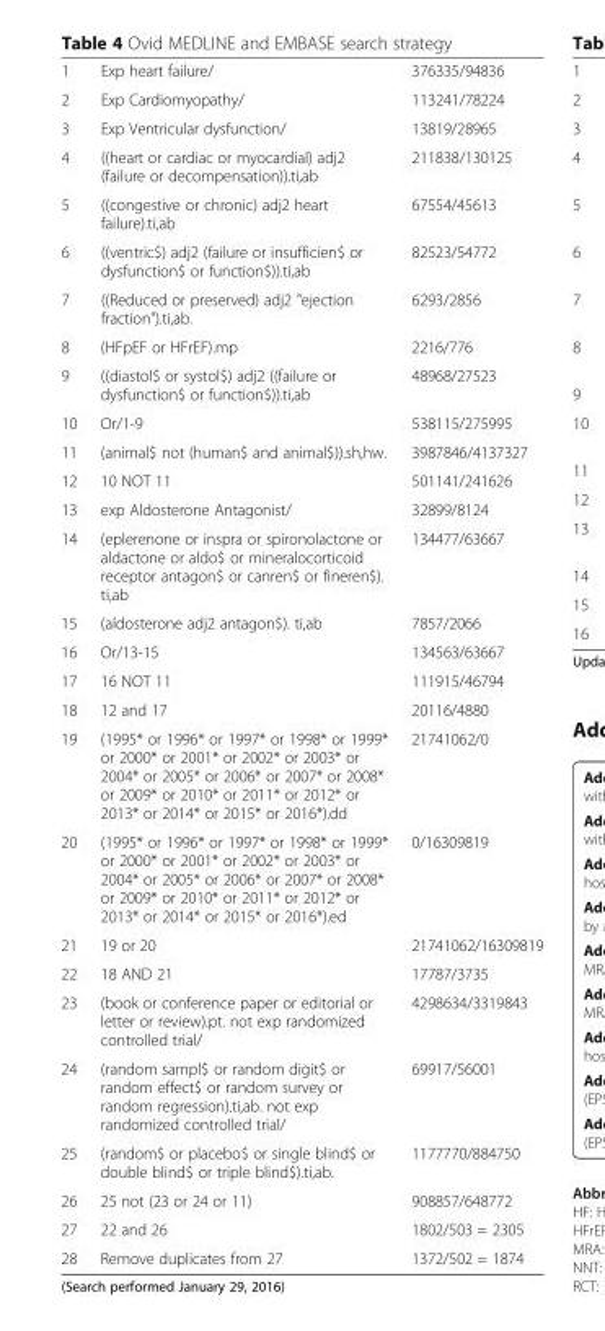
<table><tbody><tr><td>1</td><td>Exp heart failure/</td><td>376335/94836</td></tr><tr><td>2</td><td>Exp Cardiomyopathy/</td><td>113241/78224</td></tr><tr><td>3</td><td>Exp Ventricular dysfunction/</td><td>13819/28965</td></tr><tr><td>4</td><td>((heart or cardiac or myocardial) adj2 (failure or decompensation)).ti,ab</td><td>211838/130125</td></tr><tr><td>5</td><td>((congestive or chronic) adj2 heart failure).ti,ab</td><td>67554/45613</td></tr><tr><td>6</td><td>((ventric$) adj2 (failure or insufficien$ or dysfunction$ or function$)).ti,ab</td><td>82523/54772</td></tr><tr><td>7</td><td>((Reduced or preserved) adj2 &quot;ejection fraction&quot;).ti,ab.</td><td>6293/2856</td></tr><tr><td>8</td><td>(HFpEF or HFrEF).mp</td><td>2216/776</td></tr><tr><td>9</td><td>((diastol$ or systol$) adj2 ((failure or dysfunction$ or function$)).ti,ab</td><td>48968/27523</td></tr><tr><td>10</td><td>Or/1-9</td><td>538115/275995</td></tr><tr><td>11</td><td>(animal$ not (human$ and animal$)).sh,hw.</td><td>3987846/4137327</td></tr><tr><td>12</td><td>10 NOT 11</td><td>501141/241626</td></tr><tr><td>13</td><td>exp Aldosterone Antagonist/</td><td>32899/8124</td></tr><tr><td>14</td><td>(eplerenone or inspra or spironolactone or aldactone or aldo$ or mineralocorticoid receptor antagon$ or canren$ or fineren$). ti,ab</td><td>134477/63667</td></tr><tr><td>15</td><td>(aldosterone adj2 antagon$). ti,ab</td><td>7857/2066</td></tr><tr><td>16</td><td>Or/13-15</td><td>134563/63667</td></tr><tr><td>17</td><td>16 NOT 11</td><td>111915/46794</td></tr><tr><td>18</td><td>12 and 17</td><td>20116/4880</td></tr><tr><td>19</td><td>(1995* or 1996* or 1997* or 1998* or 1999* or 2000* or 2001* or 2002* or 2003* or 2004* or 2005* or 2006* or 2007* or 2008* or 2009* or 2010* or 2011* or 2012* or 2013* or 2014* or 2015* or 2016*).dd</td><td>21741062/0</td></tr><tr><td>20</td><td>(1995* or 1996* or 1997* or 1998* or 1999* or 2000* or 2001* or 2002* or 2003* or 2004* or 2005* or 2006* or 2007* or 2008* or 2009* or 2010* or 2011* or 2012* or 2013* or 2014* or 2015* or 2016*).ed</td><td>0/16309819</td></tr><tr><td>21</td><td>19 or 20</td><td>21741062/16309819</td></tr><tr><td>22</td><td>18 AND 21</td><td>17787/3735</td></tr><tr><td>23</td><td>(book or conference paper or editorial or letter or review).pt. not exp randomized controlled trial/</td><td>4298634/3319843</td></tr><tr><td>24</td><td>(random sampl$ or random digit$ or random effect$ or random survey or random regression).ti,ab. not exp randomized controlled trial/</td><td>69917/56001</td></tr><tr><td>25</td><td>(random$ or placebo$ or single blind$ or double blind$ or triple blind$).ti,ab.</td><td>1177770/884750</td></tr><tr><td>26</td><td>25 not (23 or 24 or 11)</td><td>908857/648772</td></tr><tr><td>27</td><td>22 and 26</td><td>1802/503 = 2305</td></tr><tr><td>28</td><td>Remove duplicates from 27</td><td>1372/502 = 1874</td></tr></tbody></table>